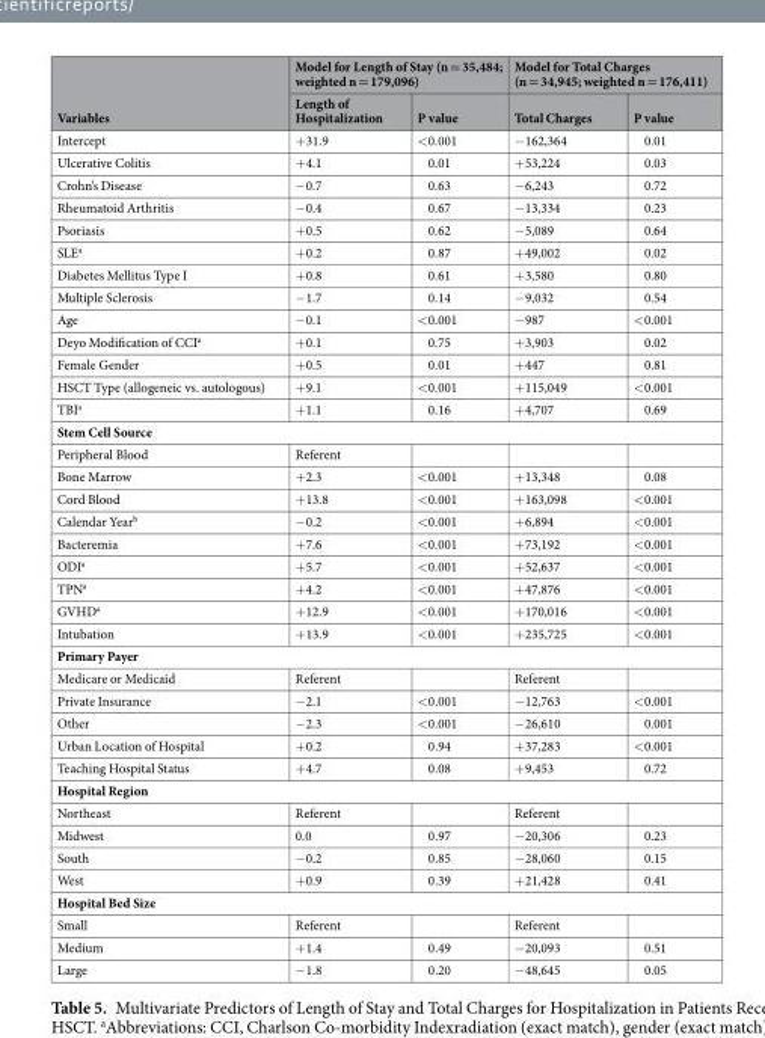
<table><thead><tr><td rowspan="2">Variables</td><td colspan="2">Model for Length of Stay (n = 35,484; weighted n = 179,096)</td><td colspan="2">Model for Total Charges (n = 34,945; weighted n = 176,411)</td></tr><tr><td>Length of Hospitalization</td><td>P value</td><td>Total Charges</td><td>P value</td></tr></thead><tbody><tr><td>Intercept</td><td>+31.9</td><td>&lt;0.001</td><td>−162,364</td><td>0.01</td></tr><tr><td>Ulcerative Colitis</td><td>+4.1</td><td>0.01</td><td>+53,224</td><td>0.03</td></tr><tr><td>Crohn’s Disease</td><td>−0.7</td><td>0.63</td><td>−6,243</td><td>0.72</td></tr><tr><td>Rheumatoid Arthritis</td><td>−0.4</td><td>0.67</td><td>−13,334</td><td>0.23</td></tr><tr><td>Psoriasis</td><td>+0.5</td><td>0.62</td><td>−5,089</td><td>0.64</td></tr><tr><td>SLE<sup>a</sup></td><td>+0.2</td><td>0.87</td><td>+49,002</td><td>0.02</td></tr><tr><td>Diabetes Mellitus Type I</td><td>+0.8</td><td>0.61</td><td>+3,580</td><td>0.80</td></tr><tr><td>Multiple Sclerosis</td><td>−1.7</td><td>0.14</td><td>−9,032</td><td>0.54</td></tr><tr><td>Age</td><td>−0.1</td><td>&lt;0.001</td><td>−987</td><td>&lt;0.001</td></tr><tr><td>Deyo Modification of CCI<sup>a</sup></td><td>+0.1</td><td>0.75</td><td>+3,903</td><td>0.02</td></tr><tr><td>Female Gender</td><td>+0.5</td><td>0.01</td><td>+447</td><td>0.81</td></tr><tr><td>HSCT Type (allogeneic vs. autologous)</td><td>+9.1</td><td>&lt;0.001</td><td>+115,049</td><td>&lt;0.001</td></tr><tr><td>TBI<sup>a</sup></td><td>+1.1</td><td>0.16</td><td>+4,707</td><td>0.69</td></tr><tr><td colspan="5">Stem Cell Source</td></tr><tr><td>Peripheral Blood</td><td>Referent</td><td></td><td></td><td></td></tr><tr><td>Bone Marrow</td><td>+2.3</td><td>&lt;0.001</td><td>+13,348</td><td>0.08</td></tr><tr><td>Cord Blood</td><td>+13.8</td><td>&lt;0.001</td><td>+163,098</td><td>&lt;0.001</td></tr><tr><td>Calendar Year<sup>b</sup></td><td>−0.2</td><td>&lt;0.001</td><td>+6,894</td><td>&lt;0.001</td></tr><tr><td>Bacteremia</td><td>+7.6</td><td>&lt;0.001</td><td>+73,192</td><td>&lt;0.001</td></tr><tr><td>ODI<sup>a</sup></td><td>+5.7</td><td>&lt;0.001</td><td>+52,637</td><td>&lt;0.001</td></tr><tr><td>TPN<sup>a</sup></td><td>+4.2</td><td>&lt;0.001</td><td>+47,876</td><td>&lt;0.001</td></tr><tr><td>GVHD<sup>a</sup></td><td>+12.9</td><td>&lt;0.001</td><td>+170,016</td><td>&lt;0.001</td></tr><tr><td>Intubation</td><td>+13.9</td><td>&lt;0.001</td><td>+235,725</td><td>&lt;0.001</td></tr><tr><td colspan="5">Primary Payer</td></tr><tr><td>Medicare or Medicaid</td><td>Referent</td><td></td><td>Referent</td><td></td></tr><tr><td>Private Insurance</td><td>−2.1</td><td>&lt;0.001</td><td>−12,763</td><td>&lt;0.001</td></tr><tr><td>Other</td><td>−2.3</td><td>&lt;0.001</td><td>−26,610</td><td>0.001</td></tr><tr><td>Urban Location of Hospital</td><td>+0.2</td><td>0.94</td><td>+37,283</td><td>&lt;0.001</td></tr><tr><td>Teaching Hospital Status</td><td>+4.7</td><td>0.08</td><td>+9,453</td><td>0.72</td></tr><tr><td colspan="5">Hospital Region</td></tr><tr><td>Northeast</td><td>Referent</td><td></td><td>Referent</td><td></td></tr><tr><td>Midwest</td><td>0.0</td><td>0.97</td><td>−20,306</td><td>0.23</td></tr><tr><td>South</td><td>−0.2</td><td>0.85</td><td>−28,060</td><td>0.15</td></tr><tr><td>West</td><td>+0.9</td><td>0.39</td><td>+21,428</td><td>0.41</td></tr><tr><td colspan="5">Hospital Bed Size</td></tr><tr><td>Small</td><td>Referent</td><td></td><td>Referent</td><td></td></tr><tr><td>Medium</td><td>+1.4</td><td>0.49</td><td>−20,093</td><td>0.51</td></tr><tr><td>Large</td><td>−1.8</td><td>0.20</td><td>−48,645</td><td>0.05</td></tr></tbody></table>